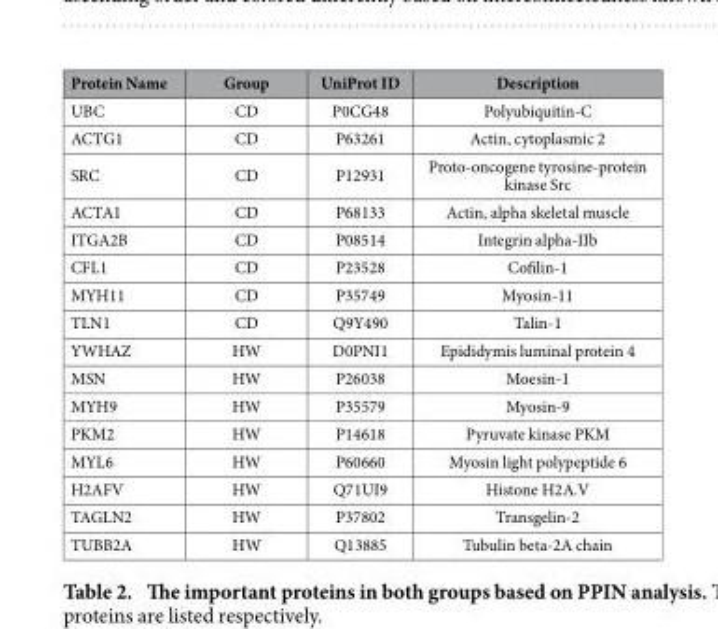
<table><thead><tr><td>Protein Name</td><td>Group</td><td>UniProt ID</td><td>Description</td></tr></thead><tbody><tr><td>UBC</td><td>CD</td><td>P0CG48</td><td>Polyubiquitin-C</td></tr><tr><td>ACTG1</td><td>CD</td><td>P63261</td><td>Actin, cytoplasmic 2</td></tr><tr><td>SRC</td><td>CD</td><td>P12931</td><td>Proto-oncogene tyrosine-protein kinase Src</td></tr><tr><td>ACTA1</td><td>CD</td><td>P68133</td><td>Actin, alpha skeletal muscle</td></tr><tr><td>ITGA2B</td><td>CD</td><td>P08514</td><td>Integrin alpha-IIb</td></tr><tr><td>CFL1</td><td>CD</td><td>P23528</td><td>Cofilin-1</td></tr><tr><td>MYH11</td><td>CD</td><td>P35749</td><td>Myosin-11</td></tr><tr><td>TLN1</td><td>CD</td><td>Q9Y490</td><td>Talin-1</td></tr><tr><td>YWHAZ</td><td>HW</td><td>D0PNI1</td><td>Epididymis luminal protein 4</td></tr><tr><td>MSN</td><td>HW</td><td>P26038</td><td>Moesin-1</td></tr><tr><td>MYH9</td><td>HW</td><td>P35579</td><td>Myosin-9</td></tr><tr><td>PKM2</td><td>HW</td><td>P14618</td><td>Pyruvate kinase PKM</td></tr><tr><td>MYL6</td><td>HW</td><td>P60660</td><td>Myosin light polypeptide 6</td></tr><tr><td>H2AFV</td><td>HW</td><td>Q71UI9</td><td>Histone H2A.V</td></tr><tr><td>TAGLN2</td><td>HW</td><td>P37802</td><td>Transgelin-2</td></tr><tr><td>TUBB2A</td><td>HW</td><td>Q13885</td><td>Tubulin beta-2A chain</td></tr></tbody></table>